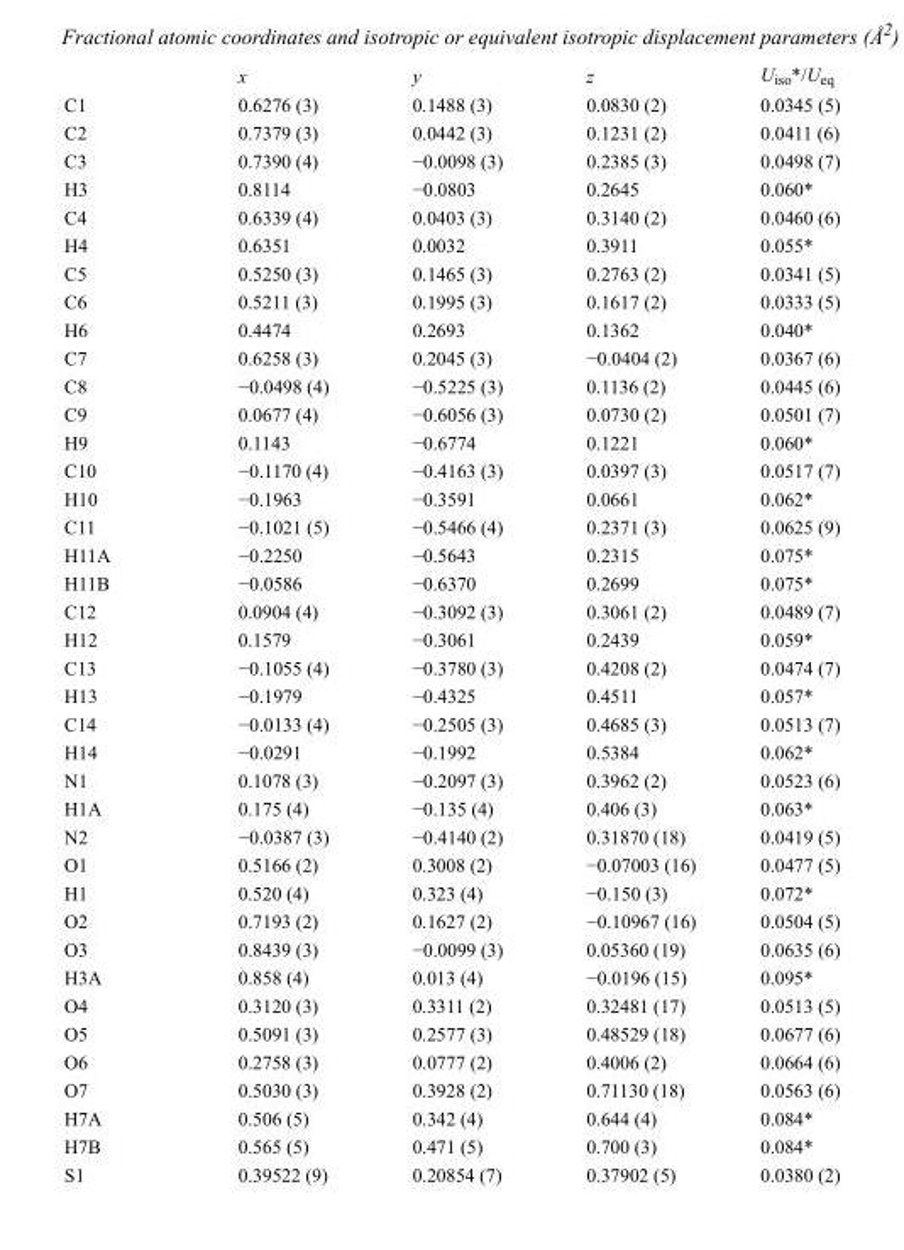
<table><thead><tr><td></td><td>x</td><td>y</td><td>z</td><td>U<sub>iso</sub>*/U<sub>eq</sub></td></tr></thead><tbody><tr><td>C1</td><td>0.6276 (3)</td><td>0.1488 (3)</td><td>0.0830 (2)</td><td>0.0345 (5)</td></tr><tr><td>C2</td><td>0.7379 (3)</td><td>0.0442 (3)</td><td>0.1231 (2)</td><td>0.0411 (6)</td></tr><tr><td>C3</td><td>0.7390 (4)</td><td>−0.0098 (3)</td><td>0.2385 (3)</td><td>0.0498 (7)</td></tr><tr><td>H3</td><td>0.8114</td><td>−0.0803</td><td>0.2645</td><td>0.060*</td></tr><tr><td>C4</td><td>0.6339 (4)</td><td>0.0403 (3)</td><td>0.3140 (2)</td><td>0.0460 (6)</td></tr><tr><td>H4</td><td>0.6351</td><td>0.0032</td><td>0.3911</td><td>0.055*</td></tr><tr><td>C5</td><td>0.5250 (3)</td><td>0.1465 (3)</td><td>0.2763 (2)</td><td>0.0341 (5)</td></tr><tr><td>C6</td><td>0.5211 (3)</td><td>0.1995 (3)</td><td>0.1617 (2)</td><td>0.0333 (5)</td></tr><tr><td>H6</td><td>0.4474</td><td>0.2693</td><td>0.1362</td><td>0.040*</td></tr><tr><td>C7</td><td>0.6258 (3)</td><td>0.2045 (3)</td><td>−0.0404 (2)</td><td>0.0367 (6)</td></tr><tr><td>C8</td><td>−0.0498 (4)</td><td>−0.5225 (3)</td><td>0.1136 (2)</td><td>0.0445 (6)</td></tr><tr><td>C9</td><td>0.0677 (4)</td><td>−0.6056 (3)</td><td>0.0730 (2)</td><td>0.0501 (7)</td></tr><tr><td>H9</td><td>0.1143</td><td>−0.6774</td><td>0.1221</td><td>0.060*</td></tr><tr><td>C10</td><td>−0.1170 (4)</td><td>−0.4163 (3)</td><td>0.0397 (3)</td><td>0.0517 (7)</td></tr><tr><td>H10</td><td>−0.1963</td><td>−0.3591</td><td>0.0661</td><td>0.062*</td></tr><tr><td>C11</td><td>−0.1021 (5)</td><td>−0.5466 (4)</td><td>0.2371 (3)</td><td>0.0625 (9)</td></tr><tr><td>H11A</td><td>−0.2250</td><td>−0.5643</td><td>0.2315</td><td>0.075*</td></tr><tr><td>H11B</td><td>−0.0586</td><td>−0.6370</td><td>0.2699</td><td>0.075*</td></tr><tr><td>C12</td><td>0.0904 (4)</td><td>−0.3092 (3)</td><td>0.3061 (2)</td><td>0.0489 (7)</td></tr><tr><td>H12</td><td>0.1579</td><td>−0.3061</td><td>0.2439</td><td>0.059*</td></tr><tr><td>C13</td><td>−0.1055 (4)</td><td>−0.3780 (3)</td><td>0.4208 (2)</td><td>0.0474 (7)</td></tr><tr><td>H13</td><td>−0.1979</td><td>−0.4325</td><td>0.4511</td><td>0.057*</td></tr><tr><td>C14</td><td>−0.0133 (4)</td><td>−0.2505 (3)</td><td>0.4685 (3)</td><td>0.0513 (7)</td></tr><tr><td>H14</td><td>−0.0291</td><td>−0.1992</td><td>0.5384</td><td>0.062*</td></tr><tr><td>N1</td><td>0.1078 (3)</td><td>−0.2097 (3)</td><td>0.3962 (2)</td><td>0.0523 (6)</td></tr><tr><td>H1A</td><td>0.175 (4)</td><td>−0.135 (4)</td><td>0.406 (3)</td><td>0.063*</td></tr><tr><td>N2</td><td>−0.0387 (3)</td><td>−0.4140 (2)</td><td>0.31870 (18)</td><td>0.0419 (5)</td></tr><tr><td>O1</td><td>0.5166 (2)</td><td>0.3008 (2)</td><td>−0.07003 (16)</td><td>0.0477 (5)</td></tr><tr><td>H1</td><td>0.520 (4)</td><td>0.323 (4)</td><td>−0.150 (3)</td><td>0.072*</td></tr><tr><td>O2</td><td>0.7193 (2)</td><td>0.1627 (2)</td><td>−0.10967 (16)</td><td>0.0504 (5)</td></tr><tr><td>O3</td><td>0.8439 (3)</td><td>−0.0099 (3)</td><td>0.05360 (19)</td><td>0.0635 (6)</td></tr><tr><td>H3A</td><td>0.858 (4)</td><td>0.013 (4)</td><td>−0.0196 (15)</td><td>0.095*</td></tr><tr><td>O4</td><td>0.3120 (3)</td><td>0.3311 (2)</td><td>0.32481 (17)</td><td>0.0513 (5)</td></tr><tr><td>O5</td><td>0.5091 (3)</td><td>0.2577 (3)</td><td>0.48529 (18)</td><td>0.0677 (6)</td></tr><tr><td>O6</td><td>0.2758 (3)</td><td>0.0777 (2)</td><td>0.4006 (2)</td><td>0.0664 (6)</td></tr><tr><td>O7</td><td>0.5030 (3)</td><td>0.3928 (2)</td><td>0.71130 (18)</td><td>0.0563 (6)</td></tr><tr><td>H7A</td><td>0.506 (5)</td><td>0.342 (4)</td><td>0.644 (4)</td><td>0.084*</td></tr><tr><td>H7B</td><td>0.565 (5)</td><td>0.471 (5)</td><td>0.700 (3)</td><td>0.084*</td></tr><tr><td>S1</td><td>0.39522 (9)</td><td>0.20854 (7)</td><td>0.37902 (5)</td><td>0.0380 (2)</td></tr></tbody></table>